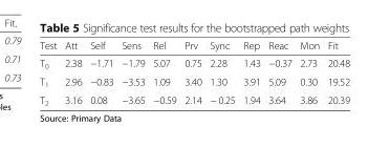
<table><thead><tr><td>Test</td><td>Att</td><td>Self</td><td>Sens</td><td>Rel</td><td>Prv</td><td>Sync</td><td>Rep</td><td>Reac</td><td>Mon</td><td>Fit</td></tr></thead><tbody><tr><td>T<sub>0</sub></td><td>2.38</td><td>−1.71</td><td>−1.79</td><td>5.07</td><td>0.75</td><td>2.28</td><td>1.43</td><td>−0.37</td><td>2.73</td><td>20.48</td></tr><tr><td>T<sub>1</sub></td><td>2.96</td><td>−0.83</td><td>−3.53</td><td>1.09</td><td>3.40</td><td>1.30</td><td>3.91</td><td>5.09</td><td>0.30</td><td>19.52</td></tr><tr><td>T<sub>2</sub></td><td>3.16</td><td>0.08</td><td>−3.65</td><td>−0.59</td><td>2.14</td><td>− 0.25</td><td>1.94</td><td>3.64</td><td>3.86</td><td>20.39</td></tr></tbody></table>